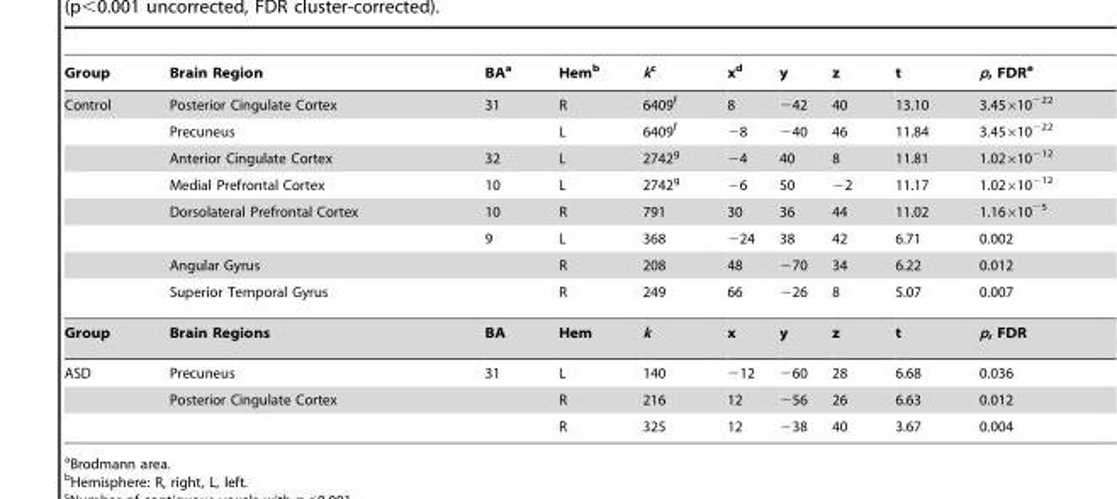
<table><thead><tr><td>Group</td><td>Brain Region</td><td>BA<sup>a</sup></td><td>Hem<sup>b</sup></td><td>kc</td><td>x<sup>d</sup></td><td>y</td><td>z</td><td>t</td><td>p, FDR<sup>e</sup></td></tr></thead><tbody><tr><td rowspan="8">Control</td><td>Posterior Cingulate Cortex</td><td>31</td><td>R</td><td>6409<sup>f</sup></td><td>8</td><td>−42</td><td>40</td><td>13.10</td><td>3.45×10<sup>−22</sup></td></tr><tr><td>Precuneus</td><td></td><td>L</td><td>6409<sup>f</sup></td><td>−8</td><td>−40</td><td>46</td><td>11.84</td><td>3.45×10<sup>−22</sup></td></tr><tr><td>Anterior Cingulate Cortex</td><td>32</td><td>L</td><td>2742<sup>g</sup></td><td>−4</td><td>40</td><td>8</td><td>11.81</td><td>1.02×10<sup>−12</sup></td></tr><tr><td>Medial Prefrontal Cortex</td><td>10</td><td>L</td><td>2742<sup>g</sup></td><td>−6</td><td>50</td><td>−2</td><td>11.17</td><td>1.02×10<sup>−12</sup></td></tr><tr><td>Dorsolateral Prefrontal Cortex</td><td>10</td><td>R</td><td>791</td><td>30</td><td>36</td><td>44</td><td>11.02</td><td>1.16×10<sup>−5</sup></td></tr><tr><td></td><td>9</td><td>L</td><td>368</td><td>−24</td><td>38</td><td>42</td><td>6.71</td><td>0.002</td></tr><tr><td>Angular Gyrus</td><td></td><td>R</td><td>208</td><td>48</td><td>−70</td><td>34</td><td>6.22</td><td>0.012</td></tr><tr><td>Superior Temporal Gyrus</td><td></td><td>R</td><td>249</td><td>66</td><td>−26</td><td>8</td><td>5.07</td><td>0.007</td></tr><tr><td>Group</td><td>Brain Regions</td><td>BA</td><td>Hem</td><td>k</td><td>x</td><td>y</td><td>z</td><td>t</td><td>p, FDR</td></tr><tr><td rowspan="3">ASD</td><td>Precuneus</td><td>31</td><td>L</td><td>140</td><td>−12</td><td>−60</td><td>28</td><td>6.68</td><td>0.036</td></tr><tr><td>Posterior Cingulate Cortex</td><td></td><td>R</td><td>216</td><td>12</td><td>−56</td><td>26</td><td>6.63</td><td>0.012</td></tr><tr><td></td><td></td><td>R</td><td>325</td><td>12</td><td>−38</td><td>40</td><td>3.67</td><td>0.004</td></tr></tbody></table>